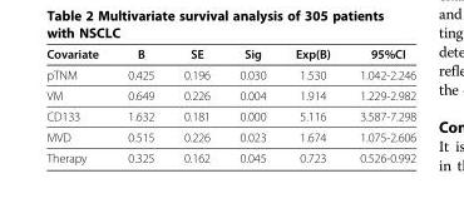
<table><thead><tr><td>Covariate</td><td>B</td><td>SE</td><td>Sig</td><td>Exp(B)</td><td>95%CI</td></tr></thead><tbody><tr><td>pTNM</td><td>0.425</td><td>0.196</td><td>0.030</td><td>1.530</td><td>1.042-2.246</td></tr><tr><td>VM</td><td>0.649</td><td>0.226</td><td>0.004</td><td>1.914</td><td>1.229-2.982</td></tr><tr><td>CD133</td><td>1.632</td><td>0.181</td><td>0.000</td><td>5.116</td><td>3.587-7.298</td></tr><tr><td>MVD</td><td>0.515</td><td>0.226</td><td>0.023</td><td>1.674</td><td>1.075-2.606</td></tr><tr><td>Therapy</td><td>0.325</td><td>0.162</td><td>0.045</td><td>0.723</td><td>0.526-0.992</td></tr></tbody></table>